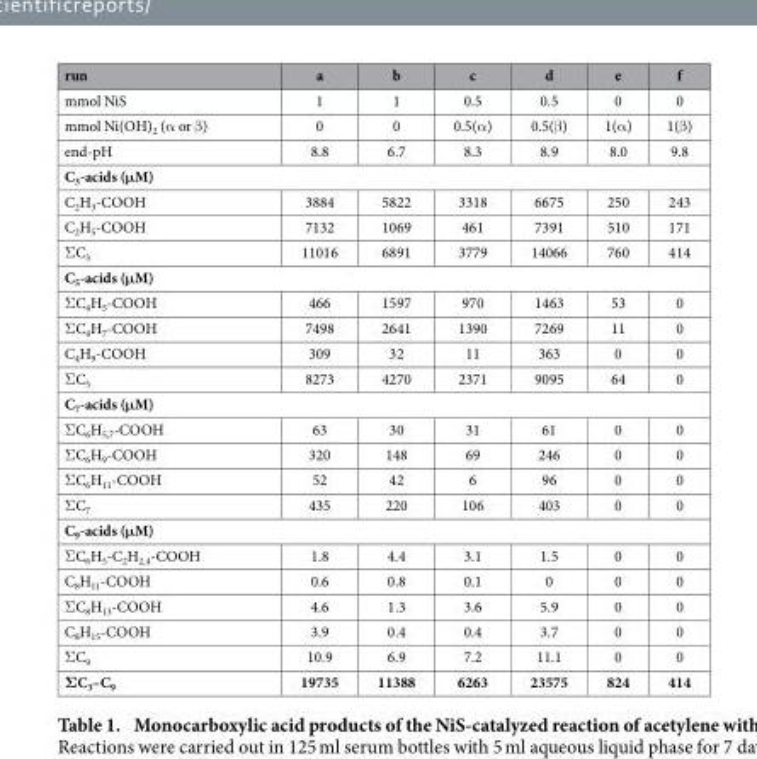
<table><thead><tr><td>run</td><td>a</td><td>b</td><td>c</td><td>d</td><td>e</td><td>f</td></tr></thead><tbody><tr><td>mmol NiS</td><td>1</td><td>1</td><td>0.5</td><td>0.5</td><td>0</td><td>0</td></tr><tr><td>mmol Ni(OH)<sub>2</sub> (α or β )</td><td>0</td><td>0</td><td>0.5(α )</td><td>0.5(β )</td><td>1(α )</td><td>1(β )</td></tr><tr><td>end-pH</td><td>8.8</td><td>6.7</td><td>8.3</td><td>8.9</td><td>8.0</td><td>9.8</td></tr><tr><td colspan="7">C<sub>3</sub>-acids (μM)</td></tr><tr><td>C<sub>2</sub>H<sub>3</sub>-COOH</td><td>3884</td><td>5822</td><td>3318</td><td>6675</td><td>250</td><td>243</td></tr><tr><td>C<sub>2</sub>H<sub>5</sub>-COOH</td><td>7132</td><td>1069</td><td>461</td><td>7391</td><td>510</td><td>171</td></tr><tr><td>Σ C<sub>3</sub></td><td>11016</td><td>6891</td><td>3779</td><td>14066</td><td>760</td><td>414</td></tr><tr><td colspan="7">C<sub>5</sub>-acids (μM)</td></tr><tr><td>Σ C<sub>4</sub>H<sub>5</sub>-COOH</td><td>466</td><td>1597</td><td>970</td><td>1463</td><td>53</td><td>0</td></tr><tr><td>Σ C<sub>4</sub>H<sub>7</sub>-COOH</td><td>7498</td><td>2641</td><td>1390</td><td>7269</td><td>11</td><td>0</td></tr><tr><td>C<sub>4</sub>H<sub>9</sub>-COOH</td><td>309</td><td>32</td><td>11</td><td>363</td><td>0</td><td>0</td></tr><tr><td>Σ C<sub>5</sub></td><td>8273</td><td>4270</td><td>2371</td><td>9095</td><td>64</td><td>0</td></tr><tr><td colspan="7">C<sub>7</sub>-acids (μM)</td></tr><tr><td>Σ C<sub>6</sub>H<sub>5,7</sub>-COOH</td><td>63</td><td>30</td><td>31</td><td>61</td><td>0</td><td>0</td></tr><tr><td>Σ C<sub>6</sub>H<sub>9</sub>-COOH</td><td>320</td><td>148</td><td>69</td><td>246</td><td>0</td><td>0</td></tr><tr><td>Σ C<sub>6</sub>H<sub>11</sub>-COOH</td><td>52</td><td>42</td><td>6</td><td>96</td><td>0</td><td>0</td></tr><tr><td>Σ C<sub>7</sub></td><td>435</td><td>220</td><td>106</td><td>403</td><td>0</td><td>0</td></tr><tr><td colspan="7">C<sub>9</sub>-acids (μM)</td></tr><tr><td>Σ C<sub>6</sub>H<sub>5</sub>-C<sub>2</sub>H<sub>2,4</sub>-COOH</td><td>1.8</td><td>4.4</td><td>3.1</td><td>1.5</td><td>0</td><td>0</td></tr><tr><td>C<sub>8</sub>H<sub>11</sub>-COOH</td><td>0.6</td><td>0.8</td><td>0.1</td><td>0</td><td>0</td><td>0</td></tr><tr><td>Σ C<sub>8</sub>H<sub>13</sub>-COOH</td><td>4.6</td><td>1.3</td><td>3.6</td><td>5.9</td><td>0</td><td>0</td></tr><tr><td>C<sub>8</sub>H<sub>15</sub>-COOH</td><td>3.9</td><td>0.4</td><td>0.4</td><td>3.7</td><td>0</td><td>0</td></tr><tr><td>Σ C<sub>9</sub></td><td>10.9</td><td>6.9</td><td>7.2</td><td>11.1</td><td>0</td><td>0</td></tr><tr><td>ΣC<sub>3</sub>–C<sub>9</sub></td><td>19735</td><td>11388</td><td>6263</td><td>23575</td><td>824</td><td>414</td></tr></tbody></table>